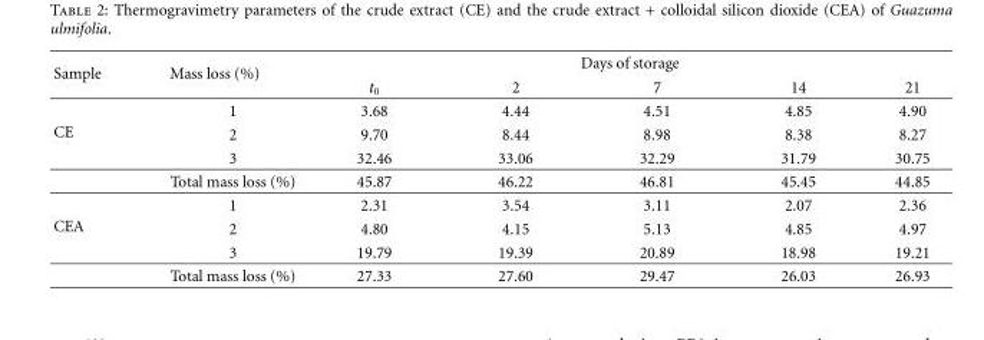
<table><thead><tr><td rowspan="2">Sample</td><td rowspan="2">Mass loss (%)</td><td colspan="5">Days of storage</td></tr><tr><td>t<sub>0</sub></td><td>2</td><td>7</td><td>14</td><td>21</td></tr></thead><tbody><tr><td rowspan="4">CE</td><td>1</td><td>3.68</td><td>4.44</td><td>4.51</td><td>4.85</td><td>4.90</td></tr><tr><td>2</td><td>9.70</td><td>8.44</td><td>8.98</td><td>8.38</td><td>8.27</td></tr><tr><td>3</td><td>32.46</td><td>33.06</td><td>32.29</td><td>31.79</td><td>30.75</td></tr><tr><td>Total mass loss (%)</td><td>45.87</td><td>46.22</td><td>46.81</td><td>45.45</td><td>44.85</td></tr><tr><td rowspan="4">CEA</td><td>1</td><td>2.31</td><td>3.54</td><td>3.11</td><td>2.07</td><td>2.36</td></tr><tr><td>2</td><td>4.80</td><td>4.15</td><td>5.13</td><td>4.85</td><td>4.97</td></tr><tr><td>3</td><td>19.79</td><td>19.39</td><td>20.89</td><td>18.98</td><td>19.21</td></tr><tr><td>Total mass loss (%)</td><td>27.33</td><td>27.60</td><td>29.47</td><td>26.03</td><td>26.93</td></tr></tbody></table>